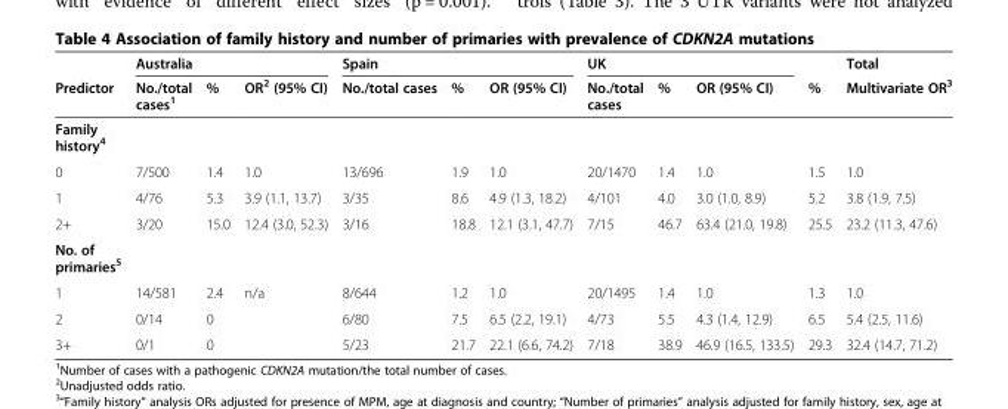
<table><thead><tr><td rowspan="2">Predictor</td><td colspan="3">Australia</td><td colspan="3">Spain</td><td colspan="3">UK</td><td rowspan="2">%</td><td rowspan="2">Total Multivariate OR<sup>3</sup></td></tr><tr><td>No./total cases<sup>1</sup></td><td>%</td><td>OR<sup>2</sup> (95% CI)</td><td>No./total cases</td><td>%</td><td>OR (95% CI)</td><td>No./total cases</td><td>%</td><td>OR (95% CI)</td></tr></thead><tbody><tr><td colspan="12">Family history<sup>4</sup></td></tr><tr><td>0</td><td>7/500</td><td>1.4</td><td>1.0</td><td>13/696</td><td>1.9</td><td>1.0</td><td>20/1470</td><td>1.4</td><td>1.0</td><td>1.5</td><td>1.0</td></tr><tr><td>1</td><td>4/76</td><td>5.3</td><td>3.9 (1.1, 13.7)</td><td>3/35</td><td>8.6</td><td>4.9 (1.3, 18.2)</td><td>4/101</td><td>4.0</td><td>3.0 (1.0, 8.9)</td><td>5.2</td><td>3.8 (1.9, 7.5)</td></tr><tr><td>2+</td><td>3/20</td><td>15.0</td><td>12.4 (3.0, 52.3)</td><td>3/16</td><td>18.8</td><td>12.1 (3.1, 47.7)</td><td>7/15</td><td>46.7</td><td>63.4 (21.0, 19.8)</td><td>25.5</td><td>23.2 (11.3, 47.6)</td></tr><tr><td colspan="12">No. of primaries<sup>5</sup></td></tr><tr><td>1</td><td>14/581</td><td>2.4</td><td>n/a</td><td>8/644</td><td>1.2</td><td>1.0</td><td>20/1495</td><td>1.4</td><td>1.0</td><td>1.3</td><td>1.0</td></tr><tr><td>2</td><td>0/14</td><td>0</td><td></td><td>6/80</td><td>7.5</td><td>6.5 (2.2, 19.1)</td><td>4/73</td><td>5.5</td><td>4.3 (1.4, 12.9)</td><td>6.5</td><td>5.4 (2.5, 11.6)</td></tr><tr><td>3+</td><td>0/1</td><td>0</td><td></td><td>5/23</td><td>21.7</td><td>22.1 (6.6, 74.2)</td><td>7/18</td><td>38.9</td><td>46.9 (16.5, 133.5)</td><td>29.3</td><td>32.4 (14.7, 71.2)</td></tr></tbody></table>